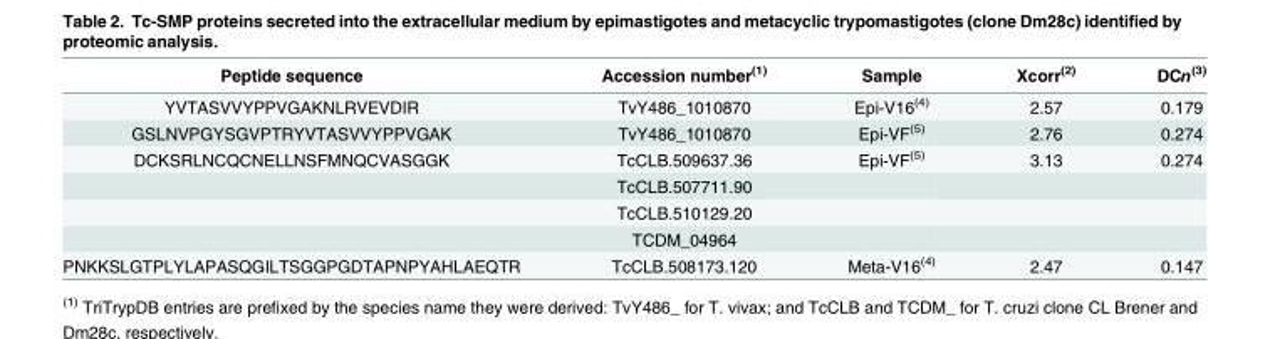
<table><thead><tr><td>Peptide sequence</td><td>Accession number<sup>(1)</sup></td><td>Sample</td><td>Xcorr<sup>(2)</sup></td><td>DCn<sup>(3)</sup></td></tr></thead><tbody><tr><td>YVTASVVYPPVGAKNLRVEVDIR</td><td>TvY486_1010870</td><td>Epi-V16<sup>(4)</sup></td><td>2.57</td><td>0.179</td></tr><tr><td>GSLNVPGYSGVPTRYVTASVVYPPVGAK</td><td>TvY486_1010870</td><td>Epi-VF<sup>(5)</sup></td><td>2.76</td><td>0.274</td></tr><tr><td rowspan="4">DCKSRLNCQCNELLNSFMNQCVASGGK</td><td>TcCLB.509637.36</td><td>Epi-VF<sup>(5)</sup></td><td>3.13</td><td>0.274</td></tr><tr><td>TcCLB.507711.90</td><td></td><td></td><td></td></tr><tr><td>TcCLB.510129.20</td><td></td><td></td><td></td></tr><tr><td>TCDM_04964</td><td></td><td></td><td></td></tr><tr><td>PNKKSLGTPLYLAPASQGILTSGGPGDTAPNPYAHLAEQTR</td><td>TcCLB.508173.120</td><td>Meta-V16<sup>(4)</sup></td><td>2.47</td><td>0.147</td></tr></tbody></table>